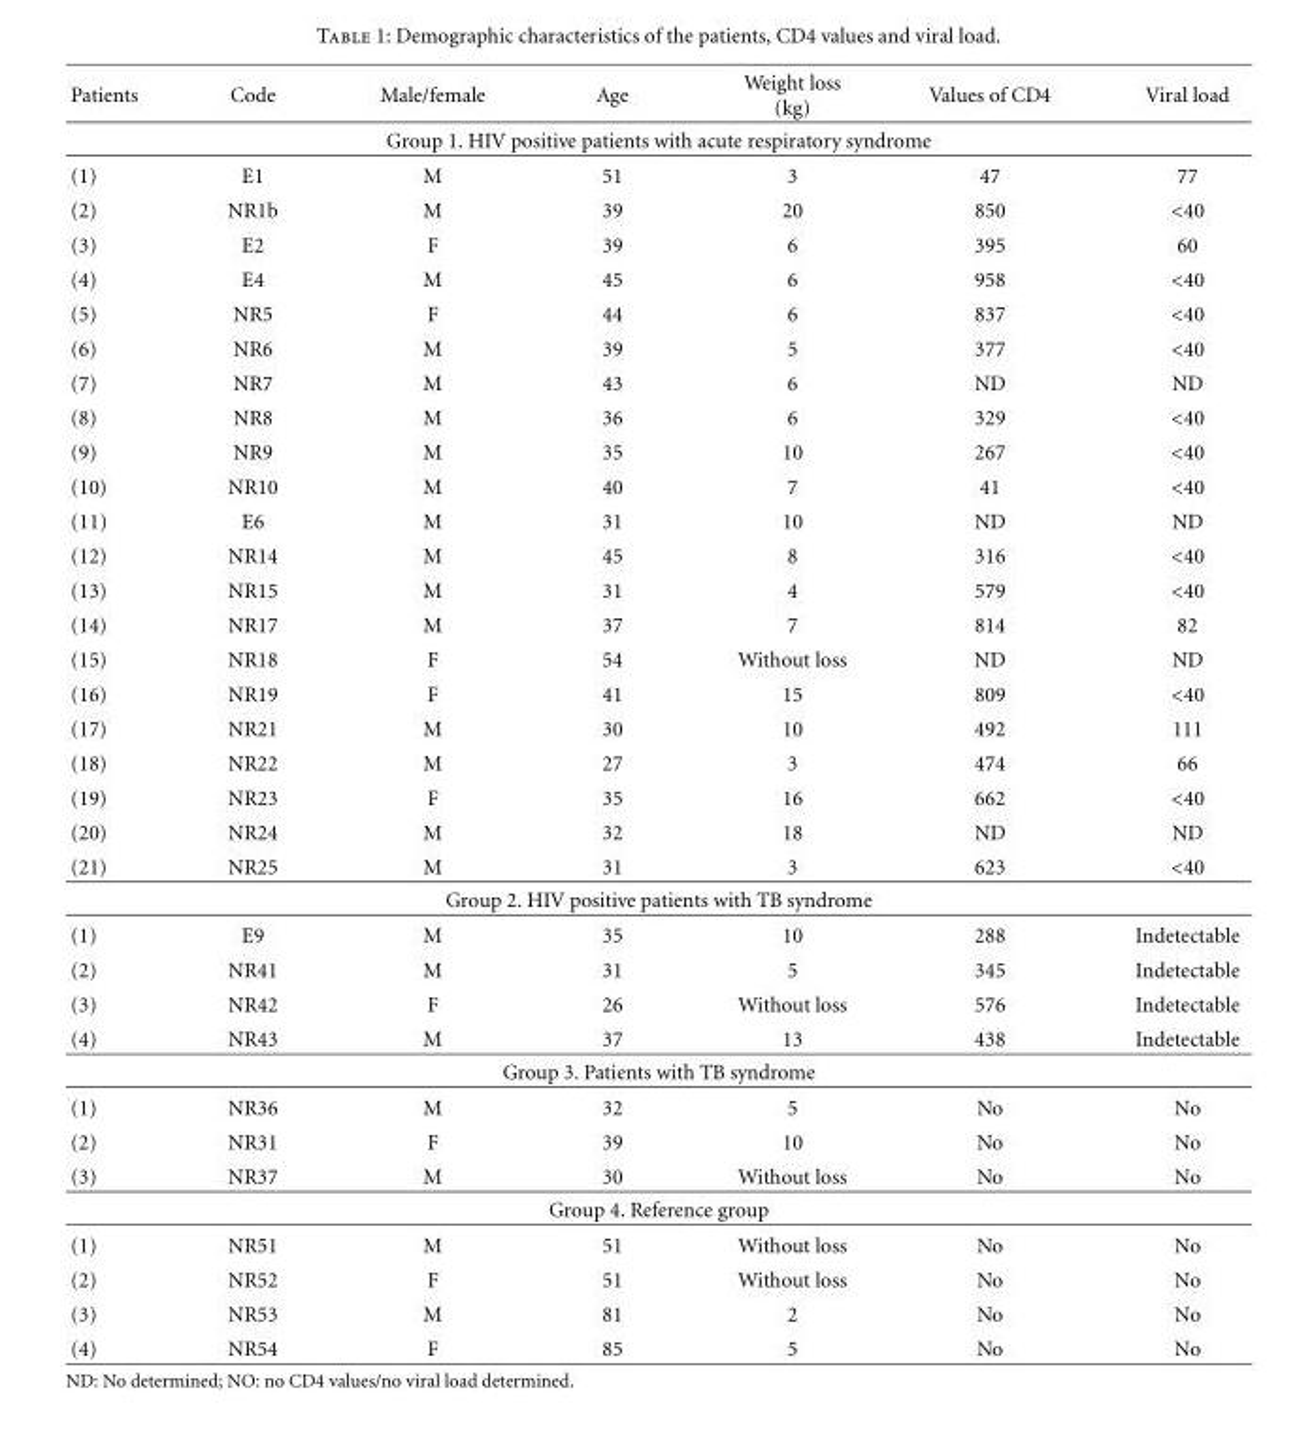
<table><thead><tr><td>Patients</td><td>Code</td><td>Male/female</td><td>Age</td><td>Weight loss (kg)</td><td>Values of CD4</td><td>Viral load</td></tr></thead><tbody><tr><td colspan="7">Group 1. HIV positive patients with acute respiratory syndrome</td></tr><tr><td>(1)</td><td>E1</td><td>M</td><td>51</td><td>3</td><td>47</td><td>77</td></tr><tr><td>(2)</td><td>NR1b</td><td>M</td><td>39</td><td>20</td><td>850</td><td>&lt;40</td></tr><tr><td>(3)</td><td>E2</td><td>F</td><td>39</td><td>6</td><td>395</td><td>60</td></tr><tr><td>(4)</td><td>E4</td><td>M</td><td>45</td><td>6</td><td>958</td><td>&lt;40</td></tr><tr><td>(5)</td><td>NR5</td><td>F</td><td>44</td><td>6</td><td>837</td><td>&lt;40</td></tr><tr><td>(6)</td><td>NR6</td><td>M</td><td>39</td><td>5</td><td>377</td><td>&lt;40</td></tr><tr><td>(7)</td><td>NR7</td><td>M</td><td>43</td><td>6</td><td>ND</td><td>ND</td></tr><tr><td>(8)</td><td>NR8</td><td>M</td><td>36</td><td>6</td><td>329</td><td>&lt;40</td></tr><tr><td>(9)</td><td>NR9</td><td>M</td><td>35</td><td>10</td><td>267</td><td>&lt;40</td></tr><tr><td>(10)</td><td>NR10</td><td>M</td><td>40</td><td>7</td><td>41</td><td>&lt;40</td></tr><tr><td>(11)</td><td>E6</td><td>M</td><td>31</td><td>10</td><td>ND</td><td>ND</td></tr><tr><td>(12)</td><td>NR14</td><td>M</td><td>45</td><td>8</td><td>316</td><td>&lt;40</td></tr><tr><td>(13)</td><td>NR15</td><td>M</td><td>31</td><td>4</td><td>579</td><td>&lt;40</td></tr><tr><td>(14)</td><td>NR17</td><td>M</td><td>37</td><td>7</td><td>814</td><td>82</td></tr><tr><td>(15)</td><td>NR18</td><td>F</td><td>54</td><td>Without loss</td><td>ND</td><td>ND</td></tr><tr><td>(16)</td><td>NR19</td><td>F</td><td>41</td><td>15</td><td>809</td><td>&lt;40</td></tr><tr><td>(17)</td><td>NR21</td><td>M</td><td>30</td><td>10</td><td>492</td><td>111</td></tr><tr><td>(18)</td><td>NR22</td><td>M</td><td>27</td><td>3</td><td>474</td><td>66</td></tr><tr><td>(19)</td><td>NR23</td><td>F</td><td>35</td><td>16</td><td>662</td><td>&lt;40</td></tr><tr><td>(20)</td><td>NR24</td><td>M</td><td>32</td><td>18</td><td>ND</td><td>ND</td></tr><tr><td>(21)</td><td>NR25</td><td>M</td><td>31</td><td>3</td><td>623</td><td>&lt;40</td></tr><tr><td colspan="7">Group 2. HIV positive patients with TB syndrome</td></tr><tr><td>(1)</td><td>E9</td><td>M</td><td>35</td><td>10</td><td>288</td><td>Indetectable</td></tr><tr><td>(2)</td><td>NR41</td><td>M</td><td>31</td><td>5</td><td>345</td><td>Indetectable</td></tr><tr><td>(3)</td><td>NR42</td><td>F</td><td>26</td><td>Without loss</td><td>576</td><td>Indetectable</td></tr><tr><td>(4)</td><td>NR43</td><td>M</td><td>37</td><td>13</td><td>438</td><td>Indetectable</td></tr><tr><td colspan="7">Group 3. Patients with TB syndrome</td></tr><tr><td>(1)</td><td>NR36</td><td>M</td><td>32</td><td>5</td><td>No</td><td>No</td></tr><tr><td>(2)</td><td>NR31</td><td>F</td><td>39</td><td>10</td><td>No</td><td>No</td></tr><tr><td>(3)</td><td>NR37</td><td>M</td><td>30</td><td>Without loss</td><td>No</td><td>No</td></tr><tr><td colspan="7">Group 4. Reference group</td></tr><tr><td>(1)</td><td>NR51</td><td>M</td><td>51</td><td>Without loss</td><td>No</td><td>No</td></tr><tr><td>(2)</td><td>NR52</td><td>F</td><td>51</td><td>Without loss</td><td>No</td><td>No</td></tr><tr><td>(3)</td><td>NR53</td><td>M</td><td>81</td><td>2</td><td>No</td><td>No</td></tr><tr><td>(4)</td><td>NR54</td><td>F</td><td>85</td><td>5</td><td>No</td><td>No</td></tr></tbody></table>